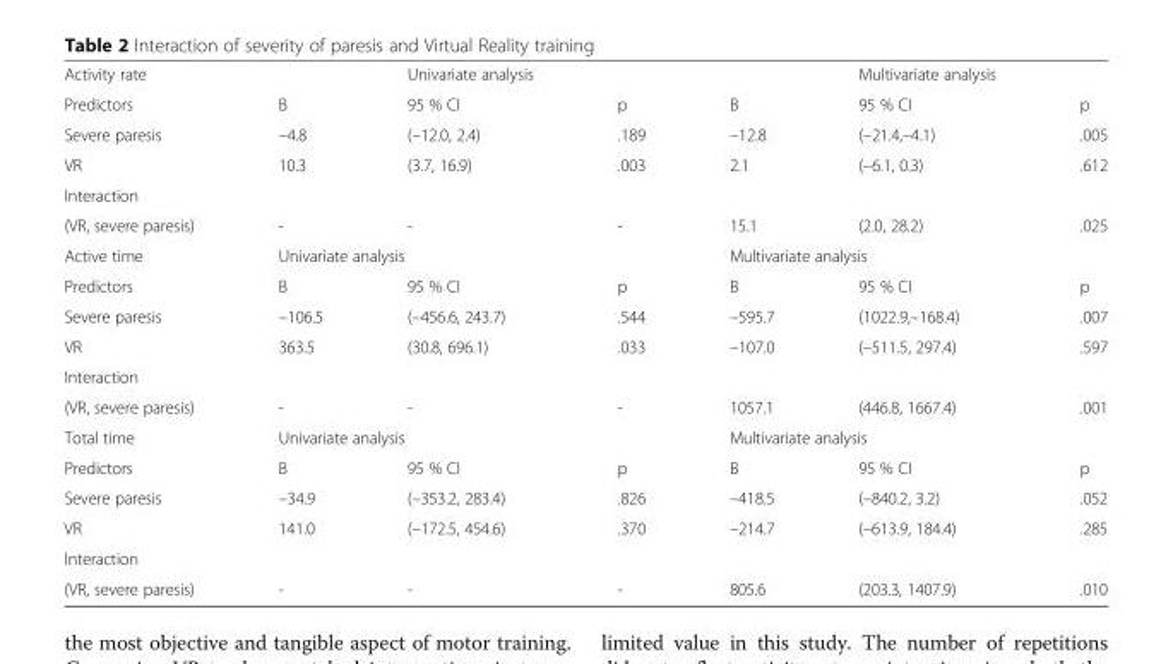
<table><tbody><tr><td>Activity rate</td><td></td><td>Univariate analysis</td><td></td><td></td><td>Multivariate analysis</td><td></td></tr><tr><td>Predictors</td><td>B</td><td>95 % CI</td><td>p</td><td>B</td><td>95 % CI</td><td>p</td></tr><tr><td>Severe paresis</td><td>–4.8</td><td>(–12.0, 2.4)</td><td>.189</td><td>–12.8</td><td>(–21.4,–4.1)</td><td>.005</td></tr><tr><td>VR</td><td>10.3</td><td>(3.7, 16.9)</td><td>.003</td><td>2.1</td><td>(–6.1, 0.3)</td><td>.612</td></tr><tr><td colspan="7">Interaction</td></tr><tr><td>(VR, severe paresis)</td><td>-</td><td>-</td><td>-</td><td>15.1</td><td>(2.0, 28.2)</td><td>.025</td></tr><tr><td>Active time</td><td colspan="3">Univariate analysis</td><td colspan="3">Multivariate analysis</td></tr><tr><td>Predictors</td><td>B</td><td>95 % CI</td><td>p</td><td>B</td><td>95 % CI</td><td>p</td></tr><tr><td>Severe paresis</td><td>–106.5</td><td>(–456.6, 243.7)</td><td>.544</td><td>–595.7</td><td>(1022.9,–168.4)</td><td>.007</td></tr><tr><td>VR</td><td>363.5</td><td>(30.8, 696.1)</td><td>.033</td><td>–107.0</td><td>(–511.5, 297.4)</td><td>.597</td></tr><tr><td colspan="7">Interaction</td></tr><tr><td>(VR, severe paresis)</td><td>-</td><td>-</td><td>-</td><td>1057.1</td><td>(446.8, 1667.4)</td><td>.001</td></tr><tr><td>Total time</td><td colspan="3">Univariate analysis</td><td colspan="3">Multivariate analysis</td></tr><tr><td>Predictors</td><td>B</td><td>95 % CI</td><td>p</td><td>B</td><td>95 % CI</td><td>p</td></tr><tr><td>Severe paresis</td><td>–34.9</td><td>(–353.2, 283.4)</td><td>.826</td><td>–418.5</td><td>(–840.2, 3.2)</td><td>.052</td></tr><tr><td>VR</td><td>141.0</td><td>(–172.5, 454.6)</td><td>.370</td><td>–214.7</td><td>(–613.9, 184.4)</td><td>.285</td></tr><tr><td colspan="7">Interaction</td></tr><tr><td>(VR, severe paresis)</td><td>-</td><td>-</td><td>-</td><td>805.6</td><td>(203.3, 1407.9)</td><td>.010</td></tr></tbody></table>